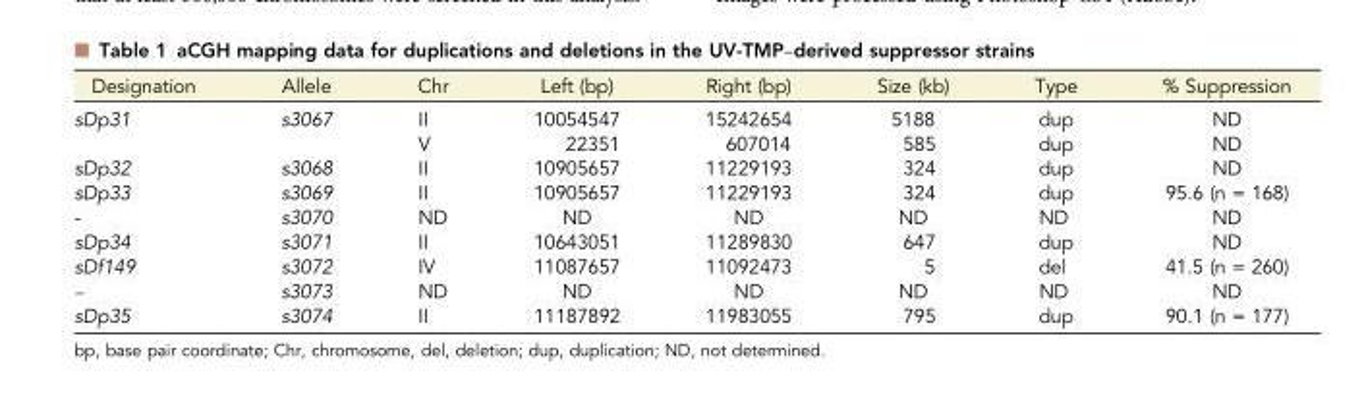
<table><thead><tr><td>Designation</td><td>Allele</td><td>Chr</td><td>Left (bp)</td><td>Right (bp)</td><td>Size (kb)</td><td>Type</td><td>% Suppression</td></tr></thead><tbody><tr><td rowspan="2">sDp31</td><td>s3067</td><td>II</td><td>10054547</td><td>15242654</td><td>5188</td><td>dup</td><td>ND</td></tr><tr><td></td><td>V</td><td>22351</td><td>607014</td><td>585</td><td>dup</td><td>ND</td></tr><tr><td>sDp32</td><td>s3068</td><td>II</td><td>10905657</td><td>11229193</td><td>324</td><td>dup</td><td>ND</td></tr><tr><td>sDp33</td><td>s3069</td><td>II</td><td>10905657</td><td>11229193</td><td>324</td><td>dup</td><td>95.6 (n = 168)</td></tr><tr><td>-</td><td>s3070</td><td>ND</td><td>ND</td><td>ND</td><td>ND</td><td>ND</td><td>ND</td></tr><tr><td>sDp34</td><td>s3071</td><td>II</td><td>10643051</td><td>11289830</td><td>647</td><td>dup</td><td>ND</td></tr><tr><td>sDf149</td><td>s3072</td><td>IV</td><td>11087657</td><td>11092473</td><td>5</td><td>del</td><td>41.5 (n = 260)</td></tr><tr><td>–</td><td>s3073</td><td>ND</td><td>ND</td><td>ND</td><td>ND</td><td>ND</td><td>ND</td></tr><tr><td>sDp35</td><td>s3074</td><td>II</td><td>11187892</td><td>11983055</td><td>795</td><td>dup</td><td>90.1 (n = 177)</td></tr></tbody></table>